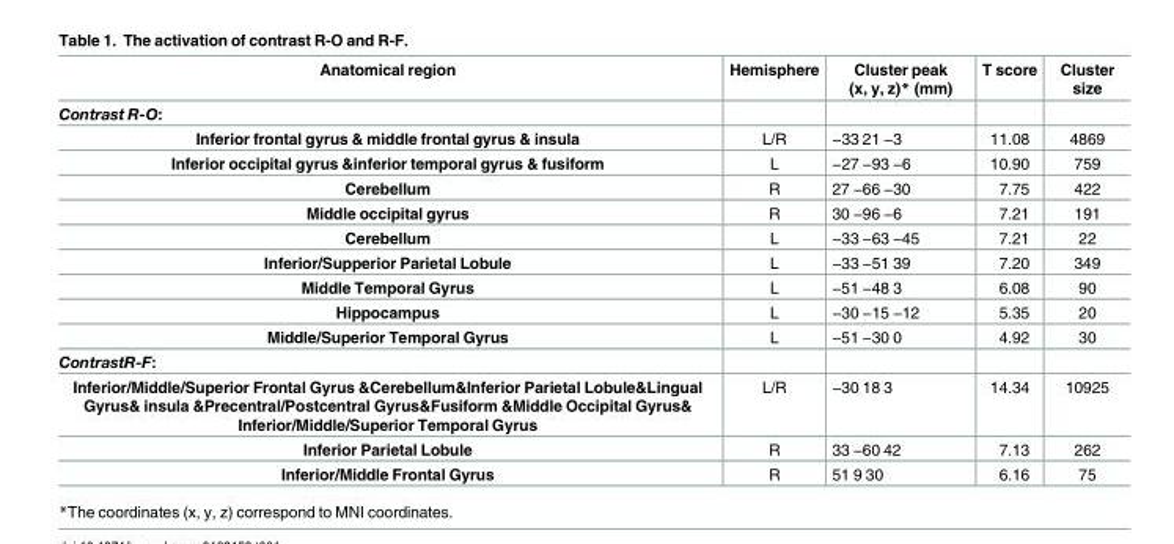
<table><thead><tr><td>Anatomical region</td><td>Hemisphere</td><td>Cluster peak (x, y, z)* (mm)</td><td>T score</td><td>Cluster size</td></tr></thead><tbody><tr><td colspan="5">Contrast R-O:</td></tr><tr><td>Inferior frontal gyrus &amp; middle frontal gyrus &amp; insula</td><td>L/R</td><td>−33 21 −3</td><td>11.08</td><td>4869</td></tr><tr><td>Inferior occipital gyrus &amp;inferior temporal gyrus &amp; fusiform</td><td>L</td><td>−27 −93 −6</td><td>10.90</td><td>759</td></tr><tr><td>Cerebellum</td><td>R</td><td>27 −66 −30</td><td>7.75</td><td>422</td></tr><tr><td>Middle occipital gyrus</td><td>R</td><td>30 −96 −6</td><td>7.21</td><td>191</td></tr><tr><td>Cerebellum</td><td>L</td><td>−33 −63 −45</td><td>7.21</td><td>22</td></tr><tr><td>Inferior/Supperior Parietal Lobule</td><td>L</td><td>−33 −51 39</td><td>7.20</td><td>349</td></tr><tr><td>Middle Temporal Gyrus</td><td>L</td><td>−51 −48 3</td><td>6.08</td><td>90</td></tr><tr><td>Hippocampus</td><td>L</td><td>−30 −15 −12</td><td>5.35</td><td>20</td></tr><tr><td>Middle/Superior Temporal Gyrus</td><td>L</td><td>−51 −30 0</td><td>4.92</td><td>30</td></tr><tr><td colspan="5">ContrastR-F:</td></tr><tr><td>Inferior/Middle/Superior Frontal Gyrus &amp;Cerebellum&amp;Inferior Parietal Lobule&amp;Lingual Gyrus&amp; insula &amp;Precentral/Postcentral Gyrus&amp;Fusiform &amp;Middle Occipital Gyrus&amp; Inferior/Middle/Superior Temporal Gyrus</td><td>L/R</td><td>−30 18 3</td><td>14.34</td><td>10925</td></tr><tr><td>Inferior Parietal Lobule</td><td>R</td><td>33 −60 42</td><td>7.13</td><td>262</td></tr><tr><td>Inferior/Middle Frontal Gyrus</td><td>R</td><td>51 9 30</td><td>6.16</td><td>75</td></tr></tbody></table>